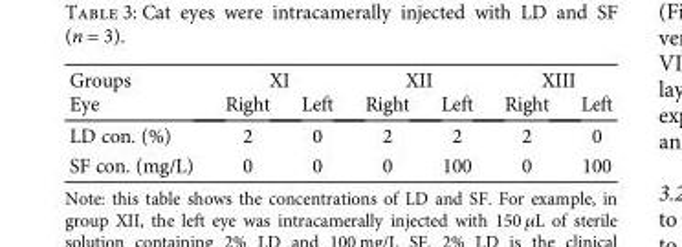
<table><thead><tr><td rowspan="2">Groups Eye</td><td colspan="2">XI</td><td colspan="2">XII</td><td colspan="2">XIII</td></tr><tr><td>Right</td><td>Left</td><td>Right</td><td>Left</td><td>Right</td><td>Left</td></tr></thead><tbody><tr><td>LD con. (%)</td><td>2</td><td>0</td><td>2</td><td>2</td><td>2</td><td>0</td></tr><tr><td>SF con. (mg/L)</td><td>0</td><td>0</td><td>0</td><td>100</td><td>0</td><td>100</td></tr></tbody></table>